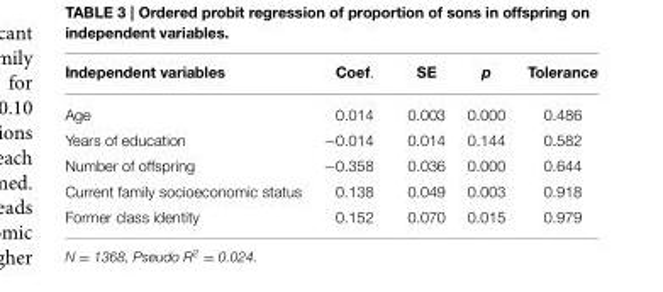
<table><thead><tr><td>Independent variables</td><td>Coef.</td><td>SE</td><td>p</td><td>Tolerance</td></tr></thead><tbody><tr><td>Age</td><td>0.014</td><td>0.003</td><td>0.000</td><td>0.486</td></tr><tr><td>Years of education</td><td>−0.014</td><td>0.014</td><td>0.144</td><td>0.582</td></tr><tr><td>Number of offspring</td><td>−0.358</td><td>0.036</td><td>0.000</td><td>0.644</td></tr><tr><td>Current family socioeconomic status</td><td>0.138</td><td>0.049</td><td>0.003</td><td>0.918</td></tr><tr><td>Former class identity</td><td>0.152</td><td>0.070</td><td>0.015</td><td>0.979</td></tr></tbody></table>